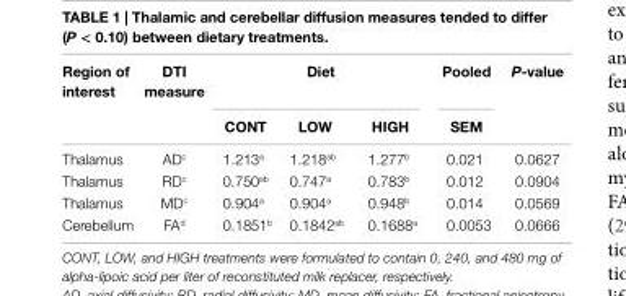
<table><thead><tr><td rowspan="2">region of interest</td><td rowspan="2">DTi measure</td><td colspan="3">Diet</td><td rowspan="2">Pooled seM</td><td rowspan="2">P-value</td></tr><tr><td>cOnT</td><td>lOW</td><td>high</td></tr></thead><tbody><tr><td>Thalamus</td><td>AD<sup>c</sup></td><td>1.213<sup>a</sup></td><td>1.218<sup>ab</sup></td><td>1.277<sup>b</sup></td><td>0.021</td><td>0.0627</td></tr><tr><td>Thalamus</td><td>RD<sup>c</sup></td><td>0.750<sup>ab</sup></td><td>0.747<sup>a</sup></td><td>0.783<sup>b</sup></td><td>0.012</td><td>0.0904</td></tr><tr><td>Thalamus</td><td>MD<sup>c</sup></td><td>0.904<sup>a</sup></td><td>0.904<sup>a</sup></td><td>0.948<sup>b</sup></td><td>0.014</td><td>0.0569</td></tr><tr><td>Cerebellum</td><td>FA<sup>d</sup></td><td>0.1851<sup>b</sup></td><td>0.1842<sup>ab</sup></td><td>0.1688<sup>a</sup></td><td>0.0053</td><td>0.0666</td></tr></tbody></table>